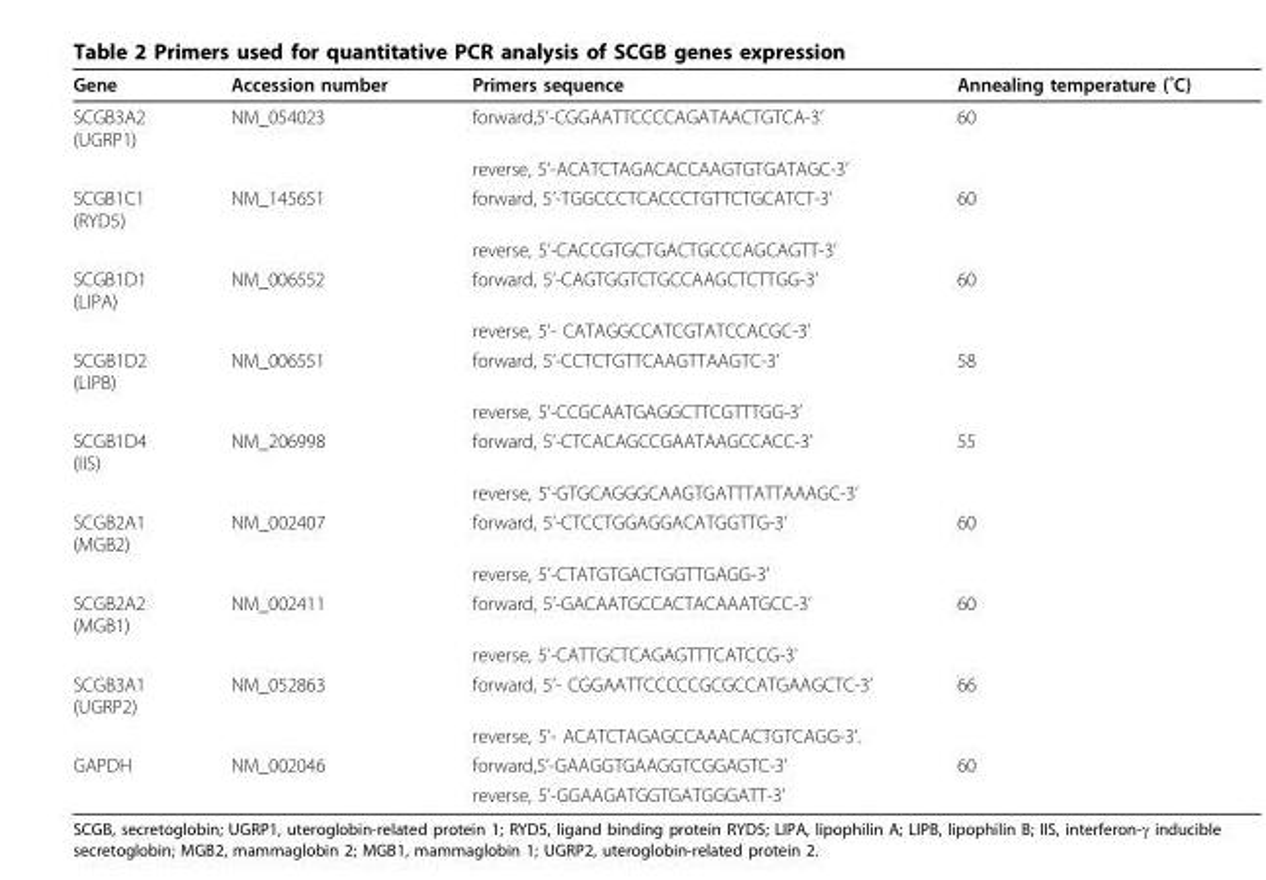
<table><thead><tr><td>Gene</td><td>Accession number</td><td>Primers sequence</td><td>Annealing temperature (˚C)</td></tr></thead><tbody><tr><td rowspan="2">SCGB3A2 (UGRP1)</td><td>NM_054023</td><td>forward,5’-CGGAATTCCCCAGATAACTGTCA-3’</td><td>60</td></tr><tr><td></td><td>reverse, 5’-ACATCTAGACACCAAGTGTGATAGC-3’</td><td></td></tr><tr><td rowspan="2">SCGB1C1 (RYD5)</td><td>NM_145651</td><td>forward, 5’-TGGCCCTCACCCTGTTCTGCATCT-3’</td><td>60</td></tr><tr><td></td><td>reverse, 5’-CACCGTGCTGACTGCCCAGCAGTT-3’</td><td></td></tr><tr><td rowspan="2">SCGB1D1 (LIPA)</td><td>NM_006552</td><td>forward, 5’-CAGTGGTCTGCCAAGCTCTTGG-3’</td><td>60</td></tr><tr><td></td><td>reverse, 5’- CATAGGCCATCGTATCCACGC-3’</td><td></td></tr><tr><td rowspan="2">SCGB1D2 (LIPB)</td><td>NM_006551</td><td>forward, 5’-CCTCTGTTCAAGTTAAGTC-3’</td><td>58</td></tr><tr><td></td><td>reverse, 5’-CCGCAATGAGGCTTCGTTTGG-3’</td><td></td></tr><tr><td rowspan="2">SCGB1D4 (IIS)</td><td>NM_206998</td><td>forward, 5’-CTCACAGCCGAATAAGCCACC-3’</td><td>55</td></tr><tr><td></td><td>reverse, 5’-GTGCAGGGCAAGTGATTTATTAAAGC-3’</td><td></td></tr><tr><td rowspan="2">SCGB2A1 (MGB2)</td><td>NM_002407</td><td>forward, 5’-CTCCTGGAGGACATGGTTG-3’</td><td>60</td></tr><tr><td></td><td>reverse, 5’-CTATGTGACTGGTTGAGG-3’</td><td></td></tr><tr><td rowspan="2">SCGB2A2 (MGB1)</td><td>NM_002411</td><td>forward, 5’-GACAATGCCACTACAAATGCC-3’</td><td>60</td></tr><tr><td></td><td>reverse, 5’-CATTGCTCAGAGTTTCATCCG-3’</td><td></td></tr><tr><td rowspan="2">SCGB3A1 (UGRP2)</td><td>NM_052863</td><td>forward, 5’- CGGAATTCCCCCGCGCCATGAAGCTC-3’</td><td>66</td></tr><tr><td></td><td>reverse, 5’- ACATCTAGAGCCAAACACTGTCAGG-3’.</td><td></td></tr><tr><td rowspan="2">GAPDH</td><td>NM_002046</td><td>forward,5’-GAAGGTGAAGGTCGGAGTC-3’</td><td>60</td></tr><tr><td></td><td>reverse, 5’-GGAAGATGGTGATGGGATT-3’</td><td></td></tr></tbody></table>